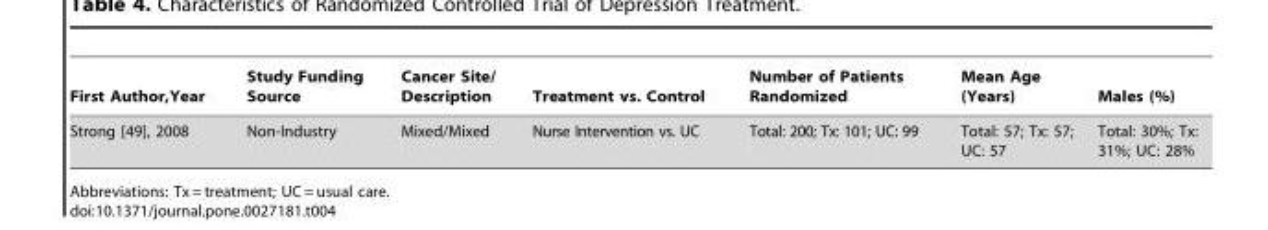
<table><thead><tr><td>First Author,Year</td><td>Study Funding Source</td><td>Cancer Site/ Description</td><td>Treatment vs. Control</td><td>Number of Patients Randomized</td><td>Mean Age (Years)</td><td>Males (%)</td></tr></thead><tbody><tr><td>Strong [49], 2008</td><td>Non-Industry</td><td>Mixed/Mixed</td><td>Nurse Intervention vs. UC</td><td>Total: 200; Tx: 101; UC: 99</td><td>Total: 57; Tx: 57; UC: 57</td><td>Total: 30%; Tx: 31%; UC: 28%</td></tr></tbody></table>